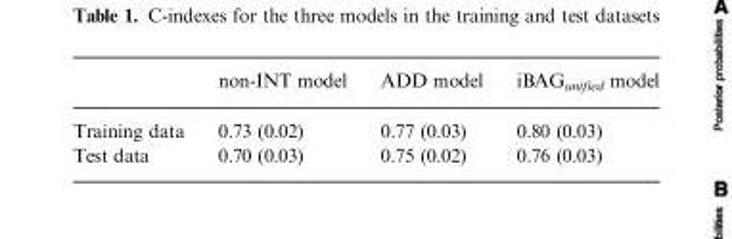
<table><thead><tr><td></td><td>non-INT model</td><td>ADD model</td><td>iBAG<sub>unified</sub> model</td></tr></thead><tbody><tr><td>Training data</td><td>0.73 (0.02)</td><td>0.77 (0.03)</td><td>0.80 (0.03)</td></tr><tr><td>Test data</td><td>0.70 (0.03)</td><td>0.75 (0.02)</td><td>0.76 (0.03)</td></tr></tbody></table>